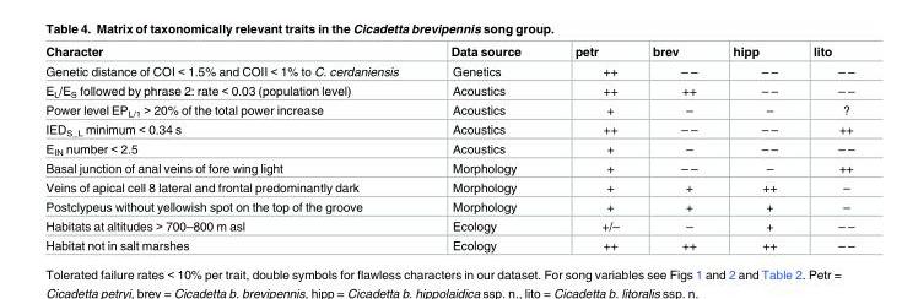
<table><thead><tr><td>Character</td><td>Data source</td><td>petr</td><td>brev</td><td>hipp</td><td>lito</td></tr></thead><tbody><tr><td>Genetic distance of COI &lt; 1.5% and COII &lt; 1% to C. cerdaniensis</td><td>Genetics</td><td>++</td><td>– –</td><td>– –</td><td>– –</td></tr><tr><td>E<sub>L</sub>/E<sub>S</sub> followed by phrase 2: rate &lt; 0.03 (population level)</td><td>Acoustics</td><td>++</td><td>++</td><td>– –</td><td>– –</td></tr><tr><td>Power level EP<sub>L/1</sub> &gt; 20% of the total power increase</td><td>Acoustics</td><td>+</td><td>–</td><td>–</td><td>?</td></tr><tr><td>IED<sub>S_L</sub> minimum &lt; 0.34 s</td><td>Acoustics</td><td>++</td><td>– –</td><td>– –</td><td>++</td></tr><tr><td>E<sub>IN</sub> number &lt; 2.5</td><td>Acoustics</td><td>+</td><td>–</td><td>– –</td><td>– –</td></tr><tr><td>Basal junction of anal veins of fore wing light</td><td>Morphology</td><td>+</td><td>– –</td><td>–</td><td>++</td></tr><tr><td>Veins of apical cell 8 lateral and frontal predominantly dark</td><td>Morphology</td><td>+</td><td>+</td><td>++</td><td>–</td></tr><tr><td>Postclypeus without yellowish spot on the top of the groove</td><td>Morphology</td><td>+</td><td>+</td><td>+</td><td>–</td></tr><tr><td>Habitats at altitudes &gt; 700–800 m asl</td><td>Ecology</td><td>+/–</td><td>–</td><td>+</td><td>– –</td></tr><tr><td>Habitat not in salt marshes</td><td>Ecology</td><td>++</td><td>++</td><td>++</td><td>– –</td></tr></tbody></table>